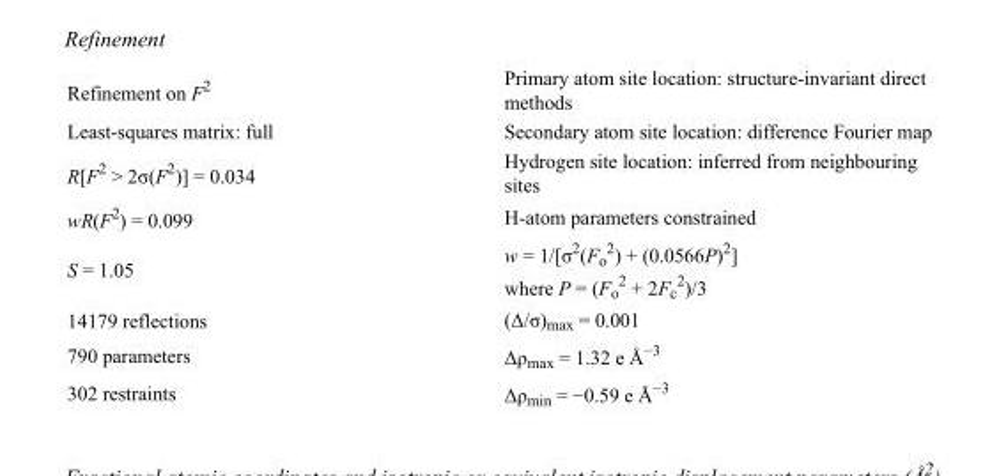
<table><tbody><tr><td>Refinement on F<sup>2</sup></td><td>Primary atom site location: structure-invariant direct methods</td></tr><tr><td>Least-squares matrix: full</td><td>Secondary atom site location: difference Fourier map</td></tr><tr><td>R[F<sup>2</sup> &gt; 2σ(F<sup>2</sup>)] = 0.034</td><td>Hydrogen site location: inferred from neighbouring sites</td></tr><tr><td>wR(F<sup>2</sup>) = 0.099</td><td>H-atom parameters constrained</td></tr><tr><td>S = 1.05</td><td>w = 1/[σ<sup>2</sup>(F<sub>o</sub> <sup>2</sup>) + (0.0566P)<sup>2</sup>] where P = (F<sub>o</sub> <sup>2</sup> + 2F<sub>c</sub> <sup>2</sup>)/3</td></tr><tr><td>14179 reflections</td><td>(Δ/σ)<sub>max</sub> = 0.001</td></tr><tr><td>790 parameters</td><td>Δρ<sub>max</sub> = 1.32 e Å<sup>−3</sup></td></tr><tr><td>302 restraints</td><td>Δρ<sub>min</sub> = −0.59 e Å<sup>−3</sup></td></tr></tbody></table>